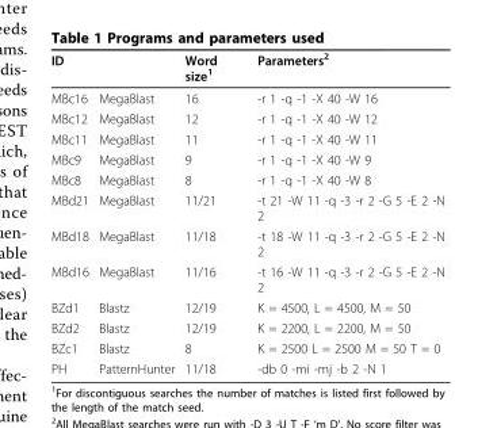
<table><thead><tr><td>ID</td><td></td><td>Word size<sup>1</sup></td><td>Parameters<sup>2</sup></td></tr></thead><tbody><tr><td>MBc16</td><td>MegaBlast</td><td>16</td><td>-r 1 -q -1 -X 40 -W 16</td></tr><tr><td>MBc12</td><td>MegaBlast</td><td>12</td><td>-r 1 -q -1 -X 40 -W 12</td></tr><tr><td>MBc11</td><td>MegaBlast</td><td>11</td><td>-r 1 -q -1 -X 40 -W 11</td></tr><tr><td>MBc9</td><td>MegaBlast</td><td>9</td><td>-r 1 -q -1 -X 40 -W 9</td></tr><tr><td>MBc8</td><td>MegaBlast</td><td>8</td><td>-r 1 -q -1 -X 40 -W 8</td></tr><tr><td>MBd21</td><td>MegaBlast</td><td>11/21</td><td>-t 21 -W 11 -q -3 -r 2 -G 5 -E 2 -N 2</td></tr><tr><td>MBd18</td><td>MegaBlast</td><td>11/18</td><td>-t 18 -W 11 -q -3 -r 2 -G 5 -E 2 -N 2</td></tr><tr><td>MBd16</td><td>MegaBlast</td><td>11/16</td><td>-t 16 -W 11 -q -3 -r 2 -G 5 -E 2 -N 2</td></tr><tr><td>BZd1</td><td>Blastz</td><td>12/19</td><td>K = 4500, L = 4500, M = 50</td></tr><tr><td>BZd2</td><td>Blastz</td><td>12/19</td><td>K = 2200, L = 2200, M = 50</td></tr><tr><td>BZc1</td><td>Blastz</td><td>8</td><td>K = 2500 L = 2500 M = 50 T = 0</td></tr><tr><td>PH</td><td>PatternHunter</td><td>11/18</td><td>-db 0 -mi -mj -b 2 -N 1</td></tr></tbody></table>